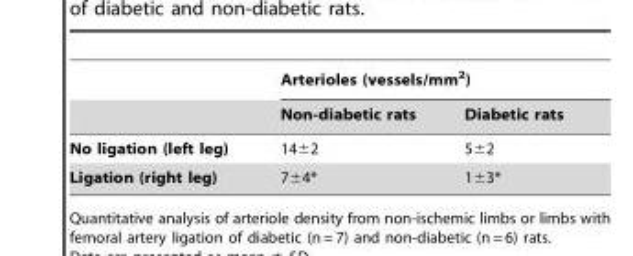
<table><thead><tr><td rowspan="2"></td><td colspan="2">Arterioles (vessels/mm<sup>2</sup>)</td></tr><tr><td>Non-diabetic rats</td><td>Diabetic rats</td></tr></thead><tbody><tr><td>No ligation (left leg)</td><td>14±2</td><td>5±2</td></tr><tr><td>Ligation (right leg)</td><td>7±4*</td><td>1±3*</td></tr></tbody></table>